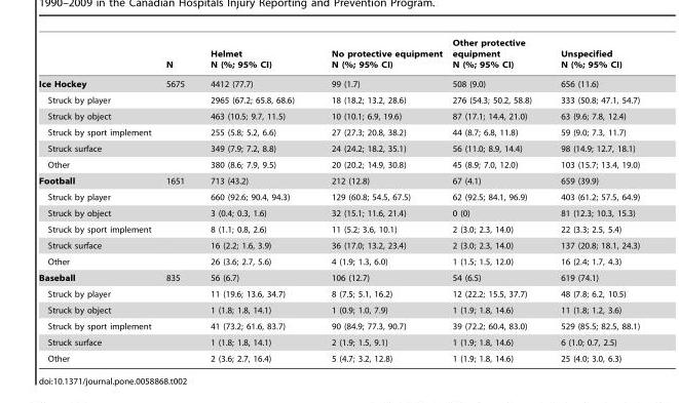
<table><thead><tr><td></td><td>N</td><td>Helmet N (%; 95% CI)</td><td>No protective equipment N (%; 95% CI)</td><td>Other protective equipment N (%; 95% CI)</td><td>Unspecified N (%; 95% CI)</td></tr></thead><tbody><tr><td>Ice Hockey</td><td>5675</td><td>4412 (77.7)</td><td>99 (1.7)</td><td>508 (9.0)</td><td>656 (11.6)</td></tr><tr><td>Struck by player</td><td></td><td>2965 (67.2; 65.8, 68.6)</td><td>18 (18.2; 13.2, 28.6)</td><td>276 (54.3; 50.2, 58.8)</td><td>333 (50.8; 47.1, 54.7)</td></tr><tr><td>Struck by object</td><td></td><td>463 (10.5; 9.7, 11.5)</td><td>10 (10.1; 6.9, 19.6)</td><td>87 (17.1; 14.4, 21.0)</td><td>63 (9.6; 7.8, 12.4)</td></tr><tr><td>Struck by sport implement</td><td></td><td>255 (5.8; 5.2, 6.6)</td><td>27 (27.3; 20.8, 38.2)</td><td>44 (8.7; 6.8, 11.8)</td><td>59 (9.0; 7.3, 11.7)</td></tr><tr><td>Struck surface</td><td></td><td>349 (7.9; 7.2, 8.8)</td><td>24 (24.2; 18.2, 35.1)</td><td>56 (11.0; 8.9, 14.4)</td><td>98 (14.9; 12.7, 18.1)</td></tr><tr><td>Other</td><td></td><td>380 (8.6; 7.9, 9.5)</td><td>20 (20.2; 14.9, 30.8)</td><td>45 (8.9; 7.0, 12.0)</td><td>103 (15.7; 13.4, 19.0)</td></tr><tr><td>Football</td><td>1651</td><td>713 (43.2)</td><td>212 (12.8)</td><td>67 (4.1)</td><td>659 (39.9)</td></tr><tr><td>Struck by player</td><td></td><td>660 (92.6; 90.4, 94.3)</td><td>129 (60.8; 54.5, 67.5)</td><td>62 (92.5; 84.1, 96.9)</td><td>403 (61.2; 57.5, 64.9)</td></tr><tr><td>Struck by object</td><td></td><td>3 (0.4; 0.3, 1.6)</td><td>32 (15.1; 11.6, 21.4)</td><td>0 (0)</td><td>81 (12.3; 10.3, 15.3)</td></tr><tr><td>Struck by sport implement</td><td></td><td>8 (1.1; 0.8, 2.6)</td><td>11 (5.2; 3.6, 10.1)</td><td>2 (3.0; 2.3, 14.0)</td><td>22 (3.3; 2.5, 5.4)</td></tr><tr><td>Struck surface</td><td></td><td>16 (2.2; 1.6, 3.9)</td><td>36 (17.0; 13.2, 23.4)</td><td>2 (3.0; 2.3, 14.0)</td><td>137 (20.8; 18.1, 24.3)</td></tr><tr><td>Other</td><td></td><td>26 (3.6; 2.7, 5.6)</td><td>4 (1.9; 1.3, 6.0)</td><td>1 (1.5; 1.5, 12.0)</td><td>16 (2.4; 1.7, 4.3)</td></tr><tr><td>Baseball</td><td>835</td><td>56 (6.7)</td><td>106 (12.7)</td><td>54 (6.5)</td><td>619 (74.1)</td></tr><tr><td>Struck by player</td><td></td><td>11 (19.6; 13.6, 34.7)</td><td>8 (7.5; 5.1, 16.2)</td><td>12 (22.2; 15.5, 37.7)</td><td>48 (7.8; 6.2, 10.5)</td></tr><tr><td>Struck by object</td><td></td><td>1 (1.8; 1.8, 14.1)</td><td>1 (0.9; 1.0, 7.9)</td><td>1 (1.9; 1.8, 14.6)</td><td>11 (1.8; 1.2, 3.6)</td></tr><tr><td>Struck by sport implement</td><td></td><td>41 (73.2; 61.6, 83.7)</td><td>90 (84.9; 77.3, 90.7)</td><td>39 (72.2; 60.4, 83.0)</td><td>529 (85.5; 82.5, 88.1)</td></tr><tr><td>Struck surface</td><td></td><td>1 (1.8; 1.8, 14.1)</td><td>2 (1.9; 1.5, 9.1)</td><td>1 (1.9; 1.8, 14.6)</td><td>6 (1.0; 0.7, 2.5)</td></tr><tr><td>Other</td><td></td><td>2 (3.6; 2.7, 16.4)</td><td>5 (4.7; 3.2, 12.8)</td><td>1 (1.9; 1.8, 14.6)</td><td>25 (4.0; 3.0, 6.3)</td></tr></tbody></table>